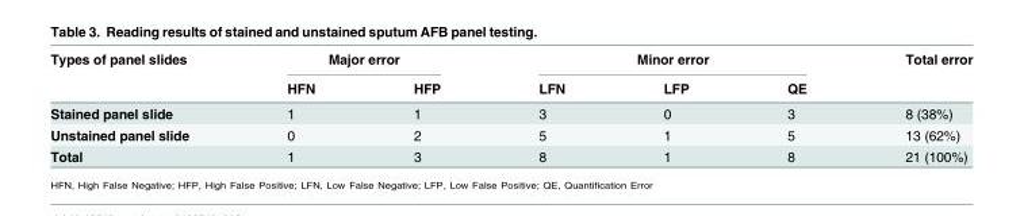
<table><thead><tr><td rowspan="2">Types of panel slides</td><td colspan="2">Major error</td><td colspan="3">Minor error</td><td rowspan="2">Total error</td></tr><tr><td>HFN</td><td>HFP</td><td>LFN</td><td>LFP</td><td>QE</td></tr></thead><tbody><tr><td>Stained panel slide</td><td>1</td><td>1</td><td>3</td><td>0</td><td>3</td><td>8 (38%)</td></tr><tr><td>Unstained panel slide</td><td>0</td><td>2</td><td>5</td><td>1</td><td>5</td><td>13 (62%)</td></tr><tr><td>Total</td><td>1</td><td>3</td><td>8</td><td>1</td><td>8</td><td>21 (100%)</td></tr></tbody></table>